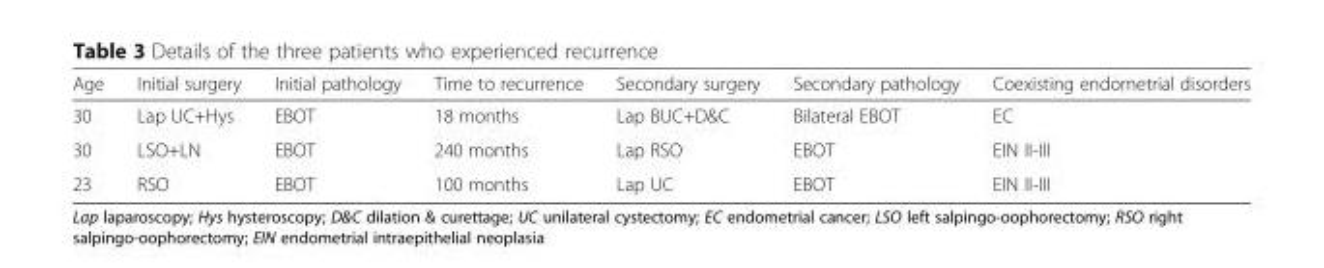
<table><thead><tr><td>Age</td><td>Initial surgery</td><td>Initial pathology</td><td>Time to recurrence</td><td>Secondary surgery</td><td>Secondary pathology</td><td>Coexisting endometrial disorders</td></tr></thead><tbody><tr><td>30</td><td>Lap UC+Hys</td><td>EBOT</td><td>18 months</td><td>Lap BUC+D&amp;C</td><td>Bilateral EBOT</td><td>EC</td></tr><tr><td>30</td><td>LSO+LN</td><td>EBOT</td><td>240 months</td><td>Lap RSO</td><td>EBOT</td><td>EIN II-III</td></tr><tr><td>23</td><td>RSO</td><td>EBOT</td><td>100 months</td><td>Lap UC</td><td>EBOT</td><td>EIN II-III</td></tr></tbody></table>